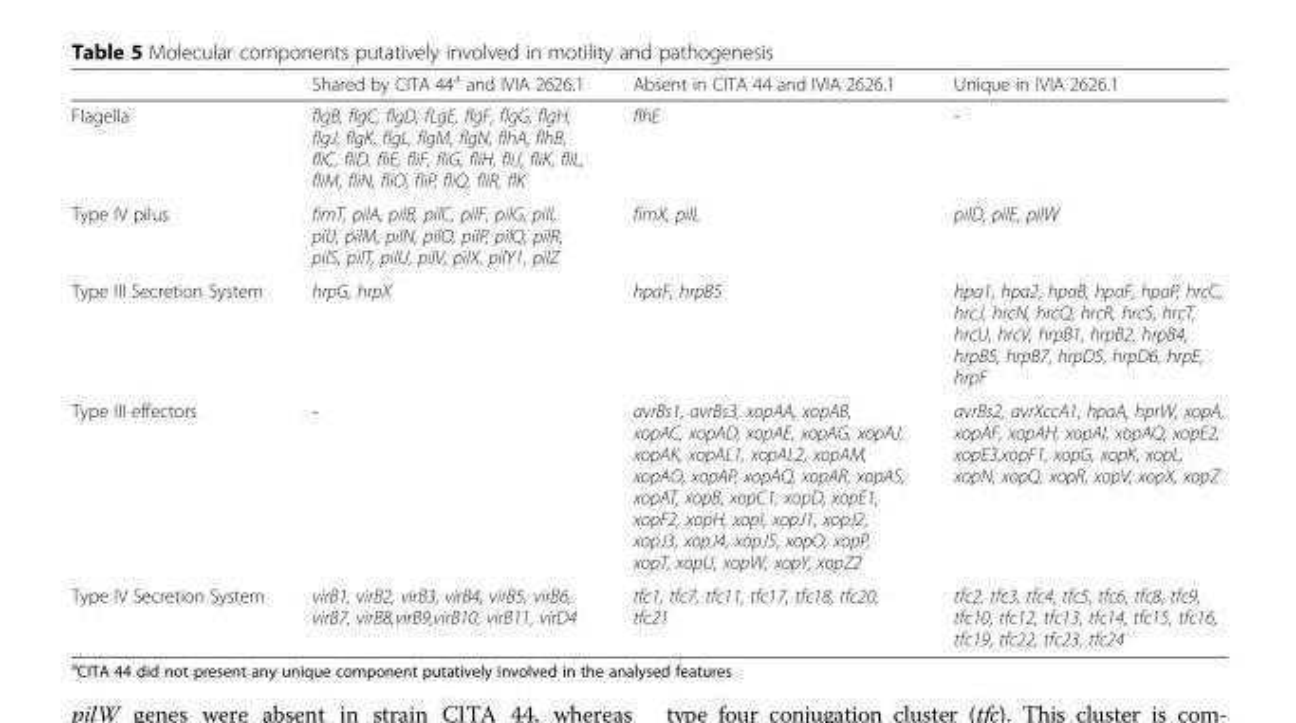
<table><thead><tr><td></td><td>Shared by CITA 44<sup>a</sup> and IVIA 2626.1</td><td>Absent in CITA 44 and IVIA 2626.1</td><td>Unique in IVIA 2626.1</td></tr></thead><tbody><tr><td>Flagella</td><td>flgB, flgC, flgD, fLgE, flgF, flgG, flgH, flgJ, flgK, flgL, flgM, flgN, flhA, flhB, fliC, fliD, fliE, fliF, fliG, fliH, fliJ, fliK, fliL, fliM, fliN, fliO, fliP, fliQ, fliR, flK</td><td>flhE</td><td>-</td></tr><tr><td>Type IV pilus</td><td>fimT, pilA, pilB, pilC, pilF, pilG, pilI, pilJ, pilM, pilN, pilO, pilP, pilQ, pilR, pilS, pilT, pilU, pilV, pilX, pilY1, pilZ</td><td>fimX, pilL</td><td>pilD, pilE, pilW</td></tr><tr><td>Type III Secretion System</td><td>hrpG, hrpX</td><td>hpaF, hrpB5</td><td>hpa1, hpa2, hpaB, hpaF, hpaP, hrcC, hrcJ, hrcN, hrcQ, hrcR, hrcS, hrcT, hrcU, hrcV, hrpB1, hrpB2, hrpB4, hrpB5, hrpB7, hrpD5, hrpD6, hrpE, hrpF</td></tr><tr><td>Type III effectors</td><td>-</td><td>avrBs1, avrBs3, xopAA, xopAB, xopAC, xopAD, xopAE, xopAG, xopAJ, xopAK, xopAL1, xopAL2, xopAM, xopAO, xopAP, xopAQ, xopAR, xopAS, xopAT, xopB, xopC1, xopD, xopE1, xopF2, xopH, xopI, xopJ1, xopJ2, xopJ3, xopJ4, xopJ5, xopO, xopP, xopT, xopU, xopW, xopY, xopZ2</td><td>avrBs2, avrXccA1, hpaA, hprW, xopA, xopAF, xopAH, xopAI, xopAQ, xopE2, xopE3,xopF1, xopG, xopK, xopL, xopN, xopQ, xopR, xopV, xopX, xopZ</td></tr><tr><td>Type IV Secretion System</td><td>virB1, virB2, virB3, virB4, virB5, virB6, virB7, virB8,virB9,virB10, virB11, virD4</td><td>tfc1, tfc7, tfc11, tfc17, tfc18, tfc20, tfc21</td><td>tfc2, tfc3, tfc4, tfc5, tfc6, tfc8, tfc9, tfc10, tfc12, tfc13, tfc14, tfc15, tfc16, tfc19, tfc22, tfc23, tfc24</td></tr></tbody></table>